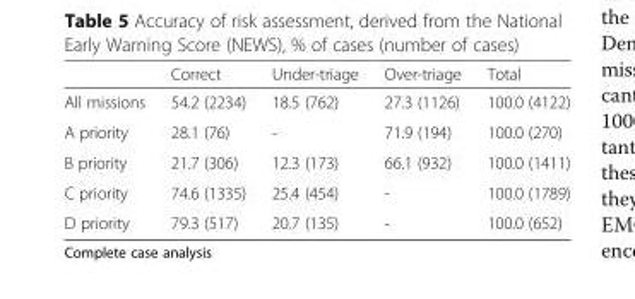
<table><thead><tr><td></td><td>Correct</td><td>Under-triage</td><td>Over-triage</td><td>Total</td></tr></thead><tbody><tr><td>All missions</td><td>54.2 (2234)</td><td>18.5 (762)</td><td>27.3 (1126)</td><td>100.0 (4122)</td></tr><tr><td>A priority</td><td>28.1 (76)</td><td>-</td><td>71.9 (194)</td><td>100.0 (270)</td></tr><tr><td>B priority</td><td>21.7 (306)</td><td>12.3 (173)</td><td>66.1 (932)</td><td>100.0 (1411)</td></tr><tr><td>C priority</td><td>74.6 (1335)</td><td>25.4 (454)</td><td>-</td><td>100.0 (1789)</td></tr><tr><td>D priority</td><td>79.3 (517)</td><td>20.7 (135)</td><td>-</td><td>100.0 (652)</td></tr></tbody></table>